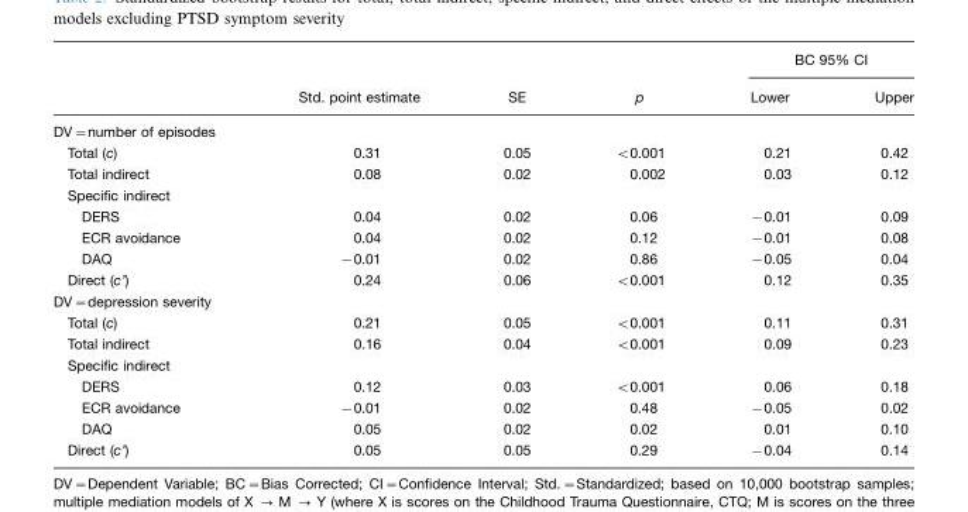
<table><thead><tr><td rowspan="2"></td><td rowspan="2">Std. point estimate</td><td rowspan="2">SE</td><td rowspan="2">p</td><td colspan="2">BC 95% CI</td></tr><tr><td>Lower</td><td>Upper</td></tr></thead><tbody><tr><td colspan="6">DV=number of episodes</td></tr><tr><td>Total (c)</td><td>0.31</td><td>0.05</td><td>&lt;0.001</td><td>0.21</td><td>0.42</td></tr><tr><td>Total indirect</td><td>0.08</td><td>0.02</td><td>0.002</td><td>0.03</td><td>0.12</td></tr><tr><td colspan="6">Specific indirect</td></tr><tr><td>DERS</td><td>0.04</td><td>0.02</td><td>0.06</td><td>−0.01</td><td>0.09</td></tr><tr><td>ECR avoidance</td><td>0.04</td><td>0.02</td><td>0.12</td><td>−0.01</td><td>0.08</td></tr><tr><td>DAQ</td><td>−0.01</td><td>0.02</td><td>0.86</td><td>−0.05</td><td>0.04</td></tr><tr><td>Direct (c’)</td><td>0.24</td><td>0.06</td><td>&lt;0.001</td><td>0.12</td><td>0.35</td></tr><tr><td colspan="6">DV=depression severity</td></tr><tr><td>Total (c)</td><td>0.21</td><td>0.05</td><td>&lt;0.001</td><td>0.11</td><td>0.31</td></tr><tr><td>Total indirect</td><td>0.16</td><td>0.04</td><td>&lt;0.001</td><td>0.09</td><td>0.23</td></tr><tr><td colspan="6">Specific indirect</td></tr><tr><td>DERS</td><td>0.12</td><td>0.03</td><td>&lt;0.001</td><td>0.06</td><td>0.18</td></tr><tr><td>ECR avoidance</td><td>−0.01</td><td>0.02</td><td>0.48</td><td>−0.05</td><td>0.02</td></tr><tr><td>DAQ</td><td>0.05</td><td>0.02</td><td>0.02</td><td>0.01</td><td>0.10</td></tr><tr><td>Direct (c’)</td><td>0.05</td><td>0.05</td><td>0.29</td><td>−0.04</td><td>0.14</td></tr></tbody></table>